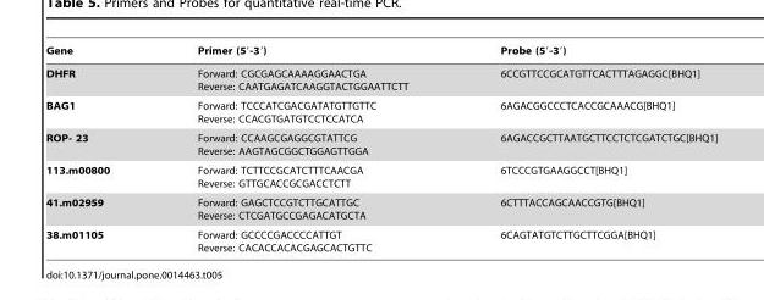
<table><thead><tr><td>Gene</td><td>Primer (5′-3′)</td><td>Probe (5′-3′)</td></tr></thead><tbody><tr><td>DHFR</td><td>Forward: CGCGAGCAAAAGGAACTGA Reverse: CAATGAGATCAAGGTACTGGAATTCTT</td><td>6CCGTTCCGCATGTTCACTTTAGAGGC[BHQ1]</td></tr><tr><td>BAG1</td><td>Forward: TCCCATCGACGATATGTTGTTC Reverse: CCACGTGATGTCCTCCATCA</td><td>6AGACGGCCCTCACCGCAAACG[BHQ1]</td></tr><tr><td>ROP- 23</td><td>Forward: CCAAGCGAGGCGTATTCG Reverse: AAGTAGCGGCTGGAGTTGGA</td><td>6AGACCGCTTAATGCTTCCTCTCGATCTGC[BHQ1]</td></tr><tr><td>113.m00800</td><td>Forward: TCTTCCGCATCTTTCAACGA Reverse: GTTGCACCGCGACCTCTT</td><td>6TCCCGTGAAGGCCT[BHQ1]</td></tr><tr><td>41.m02959</td><td>Forward: GAGCTCCGTCTTGCATTGC Reverse: CTCGATGCCGAGACATGCTA</td><td>6CTTTACCAGCAACCGTG[BHQ1]</td></tr><tr><td>38.m01105</td><td>Forward: GCCCCGACCCCATTGT Reverse: CACACCACACGAGCACTGTTC</td><td>6CAGTATGTCTTGCTTCGGA[BHQ1]</td></tr></tbody></table>